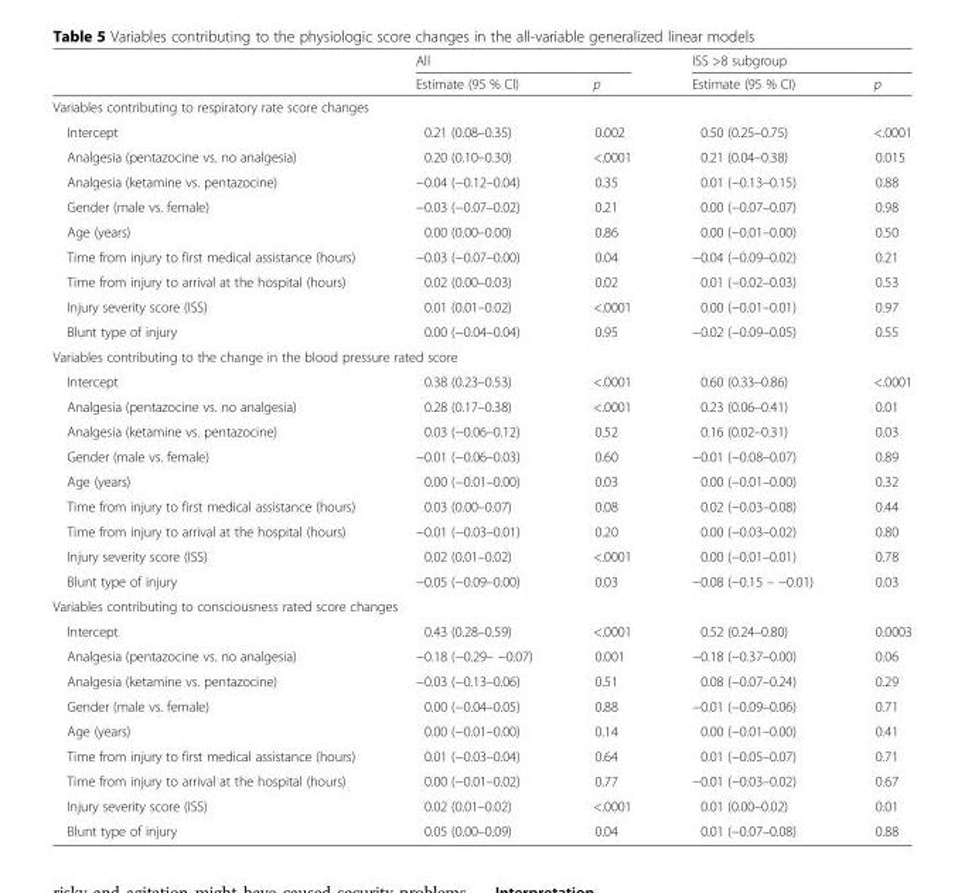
<table><thead><tr><td rowspan="2"></td><td colspan="2">All</td><td colspan="2">ISS &gt;8 subgroup</td></tr><tr><td>Estimate (95 % CI)</td><td>p</td><td>Estimate (95 % CI)</td><td>p</td></tr></thead><tbody><tr><td colspan="5">Variables contributing to respiratory rate score changes</td></tr><tr><td>Intercept</td><td>0.21 (0.08–0.35)</td><td>0.002</td><td>0.50 (0.25–0.75)</td><td>&lt;.0001</td></tr><tr><td>Analgesia (pentazocine vs. no analgesia)</td><td>0.20 (0.10–0.30)</td><td>&lt;.0001</td><td>0.21 (0.04–0.38)</td><td>0.015</td></tr><tr><td>Analgesia (ketamine vs. pentazocine)</td><td>−0.04 (−0.12–0.04)</td><td>0.35</td><td>0.01 (−0.13–0.15)</td><td>0.88</td></tr><tr><td>Gender (male vs. female)</td><td>−0.03 (−0.07–0.02)</td><td>0.21</td><td>0.00 (−0.07–0.07)</td><td>0.98</td></tr><tr><td>Age (years)</td><td>0.00 (0.00–0.00)</td><td>0.86</td><td>0.00 (−0.01–0.00)</td><td>0.50</td></tr><tr><td>Time from injury to first medical assistance (hours)</td><td>−0.03 (−0.07–0.00)</td><td>0.04</td><td>−0.04 (−0.09–0.02)</td><td>0.21</td></tr><tr><td>Time from injury to arrival at the hospital (hours)</td><td>0.02 (0.00–0.03)</td><td>0.02</td><td>0.01 (−0.02–0.03)</td><td>0.53</td></tr><tr><td>Injury severity score (ISS)</td><td>0.01 (0.01–0.02)</td><td>&lt;.0001</td><td>0.00 (−0.01–0.01)</td><td>0.97</td></tr><tr><td>Blunt type of injury</td><td>0.00 (−0.04–0.04)</td><td>0.95</td><td>−0.02 (−0.09–0.05)</td><td>0.55</td></tr><tr><td colspan="5">Variables contributing to the change in the blood pressure rated score</td></tr><tr><td>Intercept</td><td>0.38 (0.23–0.53)</td><td>&lt;.0001</td><td>0.60 (0.33–0.86)</td><td>&lt;.0001</td></tr><tr><td>Analgesia (pentazocine vs. no analgesia)</td><td>0.28 (0.17–0.38)</td><td>&lt;.0001</td><td>0.23 (0.06–0.41)</td><td>0.01</td></tr><tr><td>Analgesia (ketamine vs. pentazocine)</td><td>0.03 (−0.06–0.12)</td><td>0.52</td><td>0.16 (0.02–0.31)</td><td>0.03</td></tr><tr><td>Gender (male vs. female)</td><td>−0.01 (−0.06–0.03)</td><td>0.60</td><td>−0.01 (−0.08–0.07)</td><td>0.89</td></tr><tr><td>Age (years)</td><td>0.00 (−0.01–0.00)</td><td>0.03</td><td>0.00 (−0.01–0.00)</td><td>0.32</td></tr><tr><td>Time from injury to first medical assistance (hours)</td><td>0.03 (0.00–0.07)</td><td>0.08</td><td>0.02 (−0.03–0.08)</td><td>0.44</td></tr><tr><td>Time from injury to arrival at the hospital (hours)</td><td>−0.01 (−0.03–0.01)</td><td>0.20</td><td>0.00 (−0.03–0.02)</td><td>0.80</td></tr><tr><td>Injury severity score (ISS)</td><td>0.02 (0.01–0.02)</td><td>&lt;.0001</td><td>0.00 (−0.01–0.01)</td><td>0.78</td></tr><tr><td>Blunt type of injury</td><td>−0.05 (−0.09–0.00)</td><td>0.03</td><td>−0.08 (−0.15 – −0.01)</td><td>0.03</td></tr><tr><td colspan="5">Variables contributing to consciousness rated score changes</td></tr><tr><td>Intercept</td><td>0.43 (0.28–0.59)</td><td>&lt;.0001</td><td>0.52 (0.24–0.80)</td><td>0.0003</td></tr><tr><td>Analgesia (pentazocine vs. no analgesia)</td><td>−0.18 (−0.29– −0.07)</td><td>0.001</td><td>−0.18 (−0.37–0.00)</td><td>0.06</td></tr><tr><td>Analgesia (ketamine vs. pentazocine)</td><td>−0.03 (−0.13–0.06)</td><td>0.51</td><td>0.08 (−0.07–0.24)</td><td>0.29</td></tr><tr><td>Gender (male vs. female)</td><td>0.00 (−0.04–0.05)</td><td>0.88</td><td>−0.01 (−0.09–0.06)</td><td>0.71</td></tr><tr><td>Age (years)</td><td>0.00 (−0.01–0.00)</td><td>0.14</td><td>0.00 (−0.01–0.00)</td><td>0.41</td></tr><tr><td>Time from injury to first medical assistance (hours)</td><td>0.01 (−0.03–0.04)</td><td>0.64</td><td>0.01 (−0.05–0.07)</td><td>0.71</td></tr><tr><td>Time from injury to arrival at the hospital (hours)</td><td>0.00 (−0.01–0.02)</td><td>0.77</td><td>−0.01 (−0.03–0.02)</td><td>0.67</td></tr><tr><td>Injury severity score (ISS)</td><td>0.02 (0.01–0.02)</td><td>&lt;.0001</td><td>0.01 (0.00–0.02)</td><td>0.01</td></tr><tr><td>Blunt type of injury</td><td>0.05 (0.00–0.09)</td><td>0.04</td><td>0.01 (−0.07–0.08)</td><td>0.88</td></tr></tbody></table>